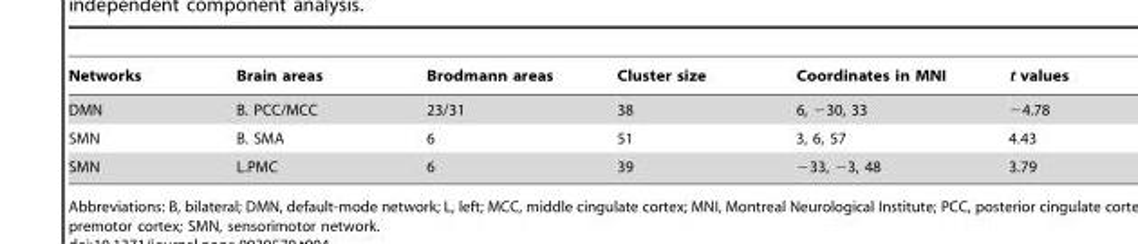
<table><thead><tr><td>Networks</td><td>Brain areas</td><td>Brodmann areas</td><td>Cluster size</td><td>Coordinates in MNI</td><td>t values</td></tr></thead><tbody><tr><td>DMN</td><td>B. PCC/MCC</td><td>23/31</td><td>38</td><td>6, −30, 33</td><td>−4.78</td></tr><tr><td>SMN</td><td>B. SMA</td><td>6</td><td>51</td><td>3, 6, 57</td><td>4.43</td></tr><tr><td>SMN</td><td>L.PMC</td><td>6</td><td>39</td><td>−33, −3, 48</td><td>3.79</td></tr></tbody></table>